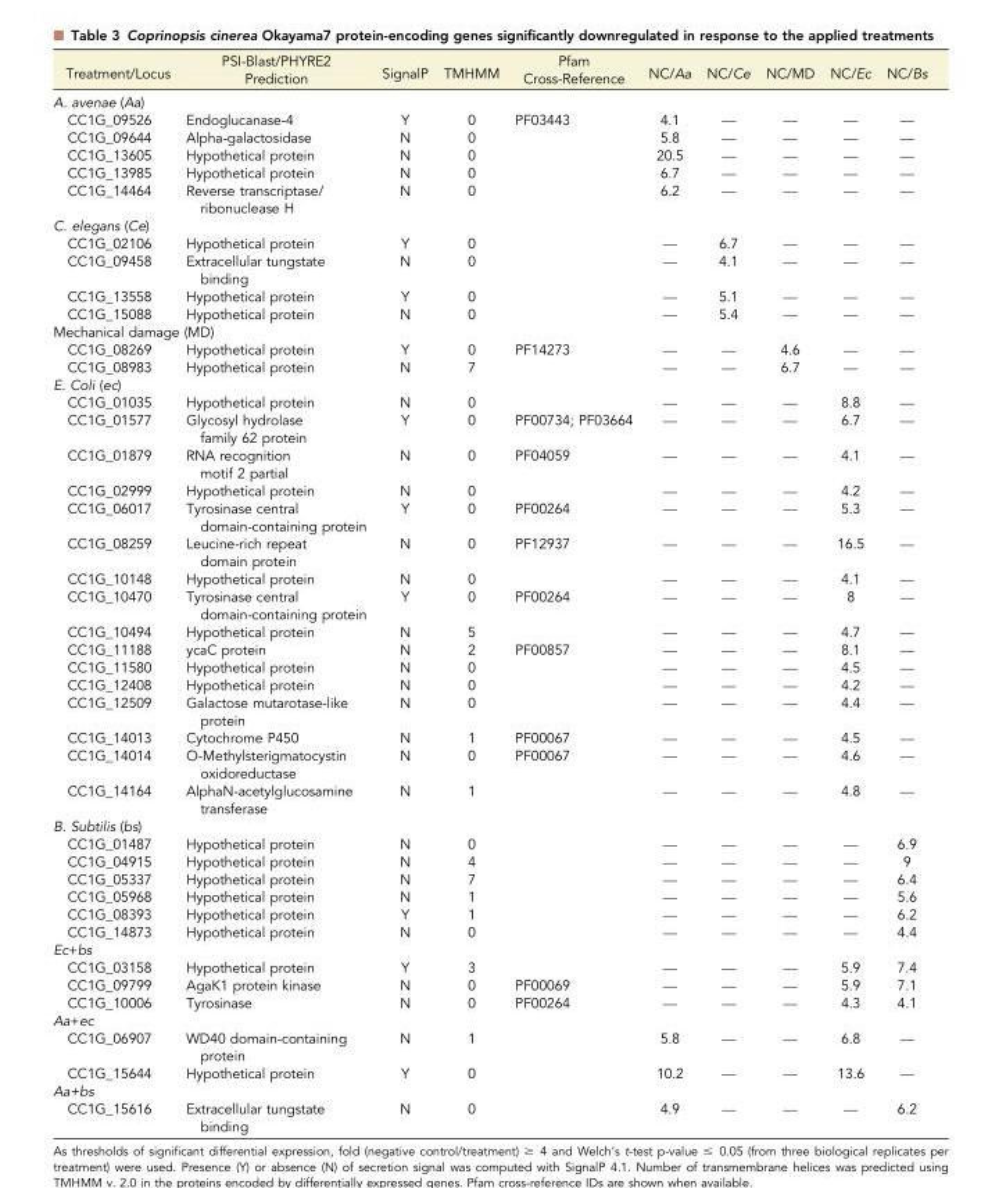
<table><thead><tr><td>Treatment/Locus</td><td>PSI-Blast/PHYRE2 Prediction</td><td>SignalP</td><td>TMHMM</td><td>Pfam Cross-Reference</td><td>NC/Aa</td><td>NC/Ce</td><td>NC/MD</td><td>NC/Ec</td><td>NC/Bs</td></tr></thead><tbody><tr><td colspan="10">A. avenae (Aa)</td></tr><tr><td>CC1G_09526</td><td>Endoglucanase-4</td><td>Y</td><td>0</td><td>PF03443</td><td>4.1</td><td>—</td><td>—</td><td>—</td><td>—</td></tr><tr><td>CC1G_09644</td><td>Alpha-galactosidase</td><td>N</td><td>0</td><td></td><td>5.8</td><td>—</td><td>—</td><td>—</td><td>—</td></tr><tr><td>CC1G_13605</td><td>Hypothetical protein</td><td>N</td><td>0</td><td></td><td>20.5</td><td>—</td><td>—</td><td>—</td><td>—</td></tr><tr><td>CC1G_13985</td><td>Hypothetical protein</td><td>N</td><td>0</td><td></td><td>6.7</td><td>—</td><td>—</td><td>—</td><td>—</td></tr><tr><td>CC1G_14464</td><td>Reverse transcriptase/ ribonuclease H</td><td>N</td><td>0</td><td></td><td>6.2</td><td>—</td><td>—</td><td>—</td><td>—</td></tr><tr><td colspan="10">C. elegans (Ce)</td></tr><tr><td>CC1G_02106</td><td>Hypothetical protein</td><td>Y</td><td>0</td><td></td><td>—</td><td>6.7</td><td>—</td><td>—</td><td>—</td></tr><tr><td>CC1G_09458</td><td>Extracellular tungstate binding</td><td>N</td><td>0</td><td></td><td>—</td><td>4.1</td><td>—</td><td>—</td><td>—</td></tr><tr><td>CC1G_13558</td><td>Hypothetical protein</td><td>Y</td><td>0</td><td></td><td>—</td><td>5.1</td><td>—</td><td>—</td><td>—</td></tr><tr><td>CC1G_15088</td><td>Hypothetical protein</td><td>N</td><td>0</td><td></td><td>—</td><td>5.4</td><td>—</td><td>—</td><td>—</td></tr><tr><td colspan="10">Mechanical damage (MD)</td></tr><tr><td>CC1G_08269</td><td>Hypothetical protein</td><td>Y</td><td>0</td><td>PF14273</td><td>—</td><td>—</td><td>4.6</td><td>—</td><td>—</td></tr><tr><td>CC1G_08983</td><td>Hypothetical protein</td><td>N</td><td>7</td><td></td><td>—</td><td>—</td><td>6.7</td><td>—</td><td>—</td></tr><tr><td colspan="10">E. Coli (ec)</td></tr><tr><td>CC1G_01035</td><td>Hypothetical protein</td><td>N</td><td>0</td><td></td><td>—</td><td>—</td><td>—</td><td>8.8</td><td>—</td></tr><tr><td>CC1G_01577</td><td>Glycosyl hydrolase family 62 protein</td><td>Y</td><td>0</td><td>PF00734; PF03664</td><td>—</td><td>—</td><td>—</td><td>6.7</td><td>—</td></tr><tr><td>CC1G_01879</td><td>RNA recognition motif 2 partial</td><td>N</td><td>0</td><td>PF04059</td><td>—</td><td>—</td><td>—</td><td>4.1</td><td>—</td></tr><tr><td>CC1G_02999</td><td>Hypothetical protein</td><td>N</td><td>0</td><td></td><td>—</td><td>—</td><td>—</td><td>4.2</td><td>—</td></tr><tr><td>CC1G_06017</td><td>Tyrosinase central domain-containing protein</td><td>Y</td><td>0</td><td>PF00264</td><td>—</td><td>—</td><td>—</td><td>5.3</td><td>—</td></tr><tr><td>CC1G_08259</td><td>Leucine-rich repeat domain protein</td><td>N</td><td>0</td><td>PF12937</td><td>—</td><td>—</td><td>—</td><td>16.5</td><td>—</td></tr><tr><td>CC1G_10148</td><td>Hypothetical protein</td><td>N</td><td>0</td><td></td><td>—</td><td>—</td><td>—</td><td>4.1</td><td>—</td></tr><tr><td>CC1G_10470</td><td>Tyrosinase central domain-containing protein</td><td>Y</td><td>0</td><td>PF00264</td><td>—</td><td>—</td><td>—</td><td>8</td><td>—</td></tr><tr><td>CC1G_10494</td><td>Hypothetical protein</td><td>N</td><td>5</td><td></td><td>—</td><td>—</td><td>—</td><td>4.7</td><td>—</td></tr><tr><td>CC1G_11188</td><td>ycaC protein</td><td>N</td><td>2</td><td>PF00857</td><td>—</td><td>—</td><td>—</td><td>8.1</td><td>—</td></tr><tr><td>CC1G_11580</td><td>Hypothetical protein</td><td>N</td><td>0</td><td></td><td>—</td><td>—</td><td>—</td><td>4.5</td><td>—</td></tr><tr><td>CC1G_12408</td><td>Hypothetical protein</td><td>N</td><td>0</td><td></td><td>—</td><td>—</td><td>—</td><td>4.2</td><td>—</td></tr><tr><td>CC1G_12509</td><td>Galactose mutarotase-like protein</td><td>N</td><td>0</td><td></td><td>—</td><td>—</td><td>—</td><td>4.4</td><td>—</td></tr><tr><td>CC1G_14013</td><td>Cytochrome P450</td><td>N</td><td>1</td><td>PF00067</td><td>—</td><td>—</td><td>—</td><td>4.5</td><td>—</td></tr><tr><td>CC1G_14014</td><td>O-Methylsterigmatocystin oxidoreductase</td><td>N</td><td>0</td><td>PF00067</td><td>—</td><td>—</td><td>—</td><td>4.6</td><td>—</td></tr><tr><td>CC1G_14164</td><td>AlphaN-acetylglucosamine transferase</td><td>N</td><td>1</td><td></td><td>—</td><td>—</td><td>—</td><td>4.8</td><td>—</td></tr><tr><td colspan="10">B. Subtilis (bs)</td></tr><tr><td>CC1G_01487</td><td>Hypothetical protein</td><td>N</td><td>0</td><td></td><td>—</td><td>—</td><td>—</td><td>—</td><td>6.9</td></tr><tr><td>CC1G_04915</td><td>Hypothetical protein</td><td>N</td><td>4</td><td></td><td>—</td><td>—</td><td>—</td><td>—</td><td>9</td></tr><tr><td>CC1G_05337</td><td>Hypothetical protein</td><td>N</td><td>7</td><td></td><td>—</td><td>—</td><td>—</td><td>—</td><td>6.4</td></tr><tr><td>CC1G_05968</td><td>Hypothetical protein</td><td>N</td><td>1</td><td></td><td>—</td><td>—</td><td>—</td><td>—</td><td>5.6</td></tr><tr><td>CC1G_08393</td><td>Hypothetical protein</td><td>Y</td><td>1</td><td></td><td>—</td><td>—</td><td>—</td><td>—</td><td>6.2</td></tr><tr><td>CC1G_14873</td><td>Hypothetical protein</td><td>N</td><td>0</td><td></td><td>—</td><td>—</td><td>—</td><td>—</td><td>4.4</td></tr><tr><td colspan="10">Ec+bs</td></tr><tr><td>CC1G_03158</td><td>Hypothetical protein</td><td>Y</td><td>3</td><td></td><td>—</td><td>—</td><td>—</td><td>5.9</td><td>7.4</td></tr><tr><td>CC1G_09799</td><td>AgaK1 protein kinase</td><td>N</td><td>0</td><td>PF00069</td><td>—</td><td>—</td><td>—</td><td>5.9</td><td>7.1</td></tr><tr><td>CC1G_10006</td><td>Tyrosinase</td><td>N</td><td>0</td><td>PF00264</td><td>—</td><td>—</td><td>—</td><td>4.3</td><td>4.1</td></tr><tr><td colspan="10">Aa+ec</td></tr><tr><td>CC1G_06907</td><td>WD40 domain-containing protein</td><td>N</td><td>1</td><td></td><td>5.8</td><td>—</td><td>—</td><td>6.8</td><td>—</td></tr><tr><td>CC1G_15644</td><td>Hypothetical protein</td><td>Y</td><td>0</td><td></td><td>10.2</td><td>—</td><td>—</td><td>13.6</td><td>—</td></tr><tr><td colspan="10">Aa+bs</td></tr><tr><td>CC1G_15616</td><td>Extracellular tungstate binding</td><td>N</td><td>0</td><td></td><td>4.9</td><td>—</td><td>—</td><td>—</td><td>6.2</td></tr></tbody></table>